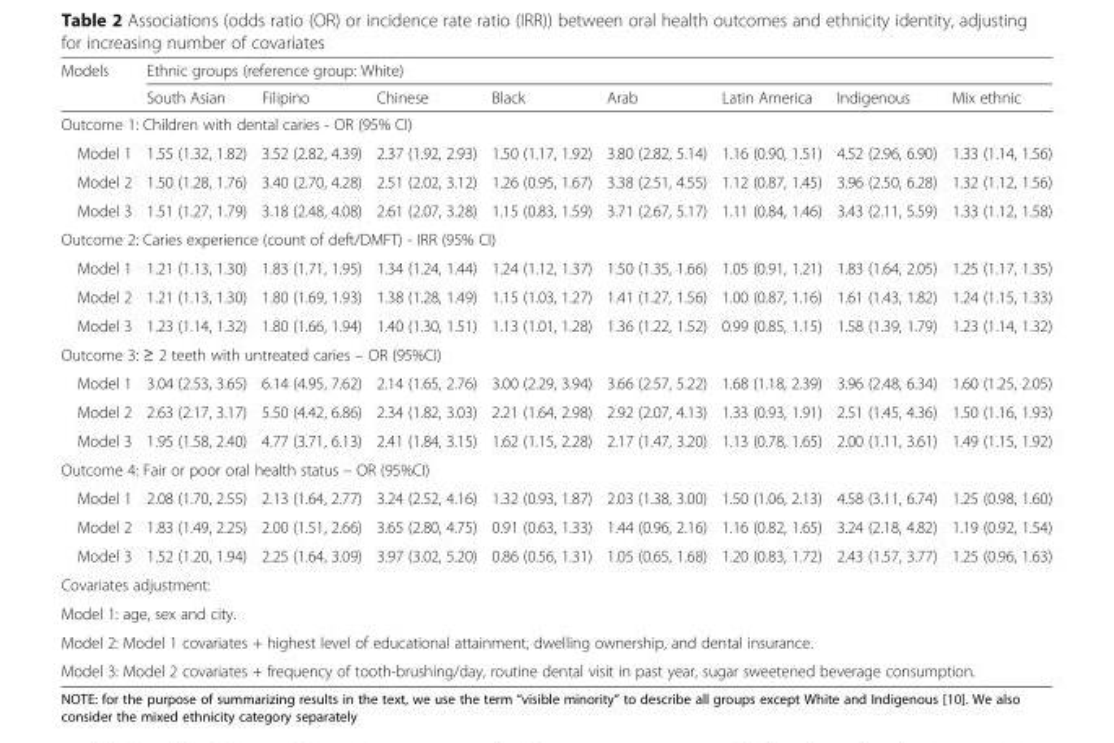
<table><thead><tr><td rowspan="2">Models</td><td colspan="8">Ethnic groups (reference group: White)</td></tr><tr><td>South Asian</td><td>Filipino</td><td>Chinese</td><td>Black</td><td>Arab</td><td>Latin America</td><td>Indigenous</td><td>Mix ethnic</td></tr></thead><tbody><tr><td colspan="9">Outcome 1: Children with dental caries - OR (95% CI)</td></tr><tr><td>Model 1</td><td>1.55 (1.32, 1.82)</td><td>3.52 (2.82, 4.39)</td><td>2.37 (1.92, 2.93)</td><td>1.50 (1.17, 1.92)</td><td>3.80 (2.82, 5.14)</td><td>1.16 (0.90, 1.51)</td><td>4.52 (2.96, 6.90)</td><td>1.33 (1.14, 1.56)</td></tr><tr><td>Model 2</td><td>1.50 (1.28, 1.76)</td><td>3.40 (2.70, 4.28)</td><td>2.51 (2.02, 3.12)</td><td>1.26 (0.95, 1.67)</td><td>3.38 (2.51, 4.55)</td><td>1.12 (0.87, 1.45)</td><td>3.96 (2.50, 6.28)</td><td>1.32 (1.12, 1.56)</td></tr><tr><td>Model 3</td><td>1.51 (1.27, 1.79)</td><td>3.18 (2.48, 4.08)</td><td>2.61 (2.07, 3.28)</td><td>1.15 (0.83, 1.59)</td><td>3.71 (2.67, 5.17)</td><td>1.11 (0.84, 1.46)</td><td>3.43 (2.11, 5.59)</td><td>1.33 (1.12, 1.58)</td></tr><tr><td colspan="9">Outcome 2: Caries experience (count of deft/DMFT) - IRR (95% CI)</td></tr><tr><td>Model 1</td><td>1.21 (1.13, 1.30)</td><td>1.83 (1.71, 1.95)</td><td>1.34 (1.24, 1.44)</td><td>1.24 (1.12, 1.37)</td><td>1.50 (1.35, 1.66)</td><td>1.05 (0.91, 1.21)</td><td>1.83 (1.64, 2.05)</td><td>1.25 (1.17, 1.35)</td></tr><tr><td>Model 2</td><td>1.21 (1.13, 1.30)</td><td>1.80 (1.69, 1.93)</td><td>1.38 (1.28, 1.49)</td><td>1.15 (1.03, 1.27)</td><td>1.41 (1.27, 1.56)</td><td>1.00 (0.87, 1.16)</td><td>1.61 (1.43, 1.82)</td><td>1.24 (1.15, 1.33)</td></tr><tr><td>Model 3</td><td>1.23 (1.14, 1.32)</td><td>1.80 (1.66, 1.94)</td><td>1.40 (1.30, 1.51)</td><td>1.13 (1.01, 1.28)</td><td>1.36 (1.22, 1.52)</td><td>0.99 (0.85, 1.15)</td><td>1.58 (1.39, 1.79)</td><td>1.23 (1.14, 1.32)</td></tr><tr><td colspan="9">Outcome 3: ≥ 2 teeth with untreated caries – OR (95%CI)</td></tr><tr><td>Model 1</td><td>3.04 (2.53, 3.65)</td><td>6.14 (4.95, 7.62)</td><td>2.14 (1.65, 2.76)</td><td>3.00 (2.29, 3.94)</td><td>3.66 (2.57, 5.22)</td><td>1.68 (1.18, 2.39)</td><td>3.96 (2.48, 6.34)</td><td>1.60 (1.25, 2.05)</td></tr><tr><td>Model 2</td><td>2.63 (2.17, 3.17)</td><td>5.50 (4.42, 6.86)</td><td>2.34 (1.82, 3.03)</td><td>2.21 (1.64, 2.98)</td><td>2.92 (2.07, 4.13)</td><td>1.33 (0.93, 1.91)</td><td>2.51 (1.45, 4.36)</td><td>1.50 (1.16, 1.93)</td></tr><tr><td>Model 3</td><td>1.95 (1.58, 2.40)</td><td>4.77 (3.71, 6.13)</td><td>2.41 (1.84, 3.15)</td><td>1.62 (1.15, 2.28)</td><td>2.17 (1.47, 3.20)</td><td>1.13 (0.78, 1.65)</td><td>2.00 (1.11, 3.61)</td><td>1.49 (1.15, 1.92)</td></tr><tr><td colspan="9">Outcome 4: Fair or poor oral health status – OR (95%CI)</td></tr><tr><td>Model 1</td><td>2.08 (1.70, 2.55)</td><td>2.13 (1.64, 2.77)</td><td>3.24 (2.52, 4.16)</td><td>1.32 (0.93, 1.87)</td><td>2.03 (1.38, 3.00)</td><td>1.50 (1.06, 2.13)</td><td>4.58 (3.11, 6.74)</td><td>1.25 (0.98, 1.60)</td></tr><tr><td>Model 2</td><td>1.83 (1.49, 2.25)</td><td>2.00 (1.51, 2.66)</td><td>3.65 (2.80, 4.75)</td><td>0.91 (0.63, 1.33)</td><td>1.44 (0.96, 2.16)</td><td>1.16 (0.82, 1.65)</td><td>3.24 (2.18, 4.82)</td><td>1.19 (0.92, 1.54)</td></tr><tr><td>Model 3</td><td>1.52 (1.20, 1.94)</td><td>2.25 (1.64, 3.09)</td><td>3.97 (3.02, 5.20)</td><td>0.86 (0.56, 1.31)</td><td>1.05 (0.65, 1.68)</td><td>1.20 (0.83, 1.72)</td><td>2.43 (1.57, 3.77)</td><td>1.25 (0.96, 1.63)</td></tr><tr><td colspan="9">Covariates adjustment:</td></tr><tr><td colspan="9">Model 1: age, sex and city.</td></tr><tr><td colspan="9">Model 2: Model 1 covariates + highest level of educational attainment, dwelling ownership, and dental insurance.</td></tr><tr><td colspan="9">Model 3: Model 2 covariates + frequency of tooth-brushing/day, routine dental visit in past year, sugar sweetened beverage consumption.</td></tr></tbody></table>